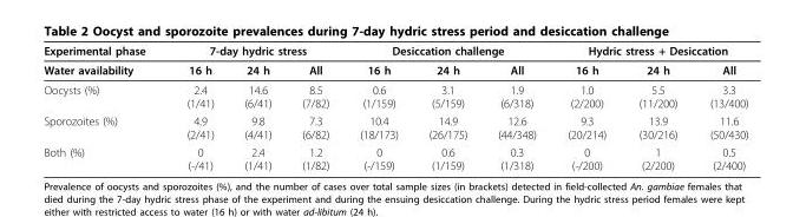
<table><thead><tr><td rowspan="2">Experimental phase Water availability</td><td colspan="3">7-day hydric stress</td><td colspan="3">Desiccation challenge</td><td colspan="3">Hydric stress + Desiccation</td></tr><tr><td>16 h</td><td>24 h</td><td>All</td><td>16 h</td><td>24 h</td><td>All</td><td>16 h</td><td>24 h</td><td>All</td></tr></thead><tbody><tr><td>Oocysts (%)</td><td>2.4 (1/41)</td><td>14.6 (6/41)</td><td>8.5 (7/82)</td><td>0.6 (1/159)</td><td>3.1 (5/159)</td><td>1.9 (6/318)</td><td>1.0 (2/200)</td><td>5.5 (11/200)</td><td>3.3 (13/400)</td></tr><tr><td>Sporozoites (%)</td><td>4.9 (2/41)</td><td>9.8 (4/41)</td><td>7.3 (6/82)</td><td>10.4 (18/173)</td><td>14.9 (26/175)</td><td>12.6 (44/348)</td><td>9.3 (20/214)</td><td>13.9 (30/216)</td><td>11.6 (50/430)</td></tr><tr><td>Both (%)</td><td>0 (-/41)</td><td>2.4 (1/41)</td><td>1.2 (1/82)</td><td>0 (-/159)</td><td>0.6 (1/159)</td><td>0.3 (1/318)</td><td>0 (-/200)</td><td>1 (2/200)</td><td>0.5 (2/400)</td></tr></tbody></table>